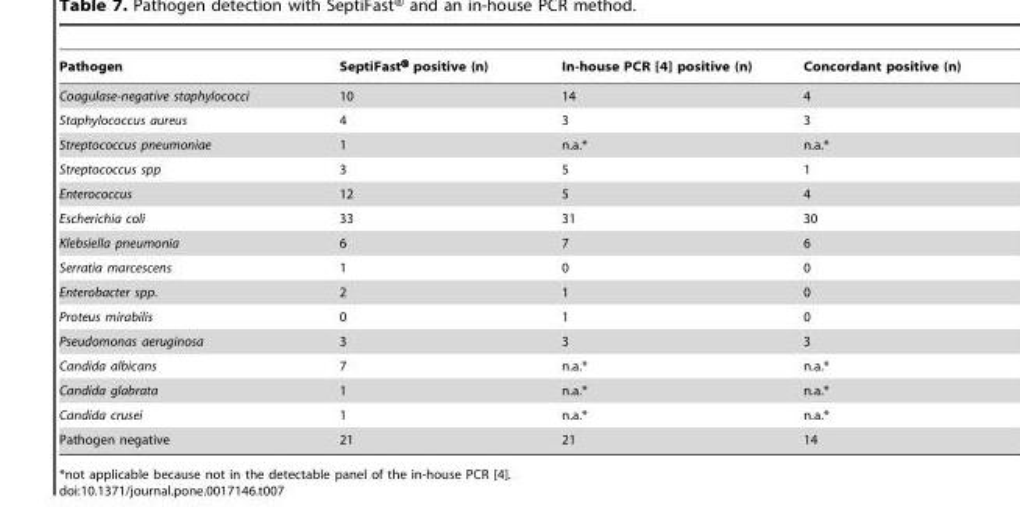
<table><thead><tr><td>Pathogen</td><td>SeptiFast<sup>®</sup> positive (n)</td><td>In-house PCR [4] positive (n)</td><td>Concordant positive (n)</td></tr></thead><tbody><tr><td>Coagulase-negative staphylococci</td><td>10</td><td>14</td><td>4</td></tr><tr><td>Staphylococcus aureus</td><td>4</td><td>3</td><td>3</td></tr><tr><td>Streptococcus pneumoniae</td><td>1</td><td>n.a.*</td><td>n.a.*</td></tr><tr><td>Streptococcus spp</td><td>3</td><td>5</td><td>1</td></tr><tr><td>Enterococcus</td><td>12</td><td>5</td><td>4</td></tr><tr><td>Escherichia coli</td><td>33</td><td>31</td><td>30</td></tr><tr><td>Klebsiella pneumonia</td><td>6</td><td>7</td><td>6</td></tr><tr><td>Serratia marcescens</td><td>1</td><td>0</td><td>0</td></tr><tr><td>Enterobacter spp.</td><td>2</td><td>1</td><td>0</td></tr><tr><td>Proteus mirabilis</td><td>0</td><td>1</td><td>0</td></tr><tr><td>Pseudomonas aeruginosa</td><td>3</td><td>3</td><td>3</td></tr><tr><td>Candida albicans</td><td>7</td><td>n.a.*</td><td>n.a.*</td></tr><tr><td>Candida glabrata</td><td>1</td><td>n.a.*</td><td>n.a.*</td></tr><tr><td>Candida crusei</td><td>1</td><td>n.a.*</td><td>n.a.*</td></tr><tr><td>Pathogen negative</td><td>21</td><td>21</td><td>14</td></tr></tbody></table>